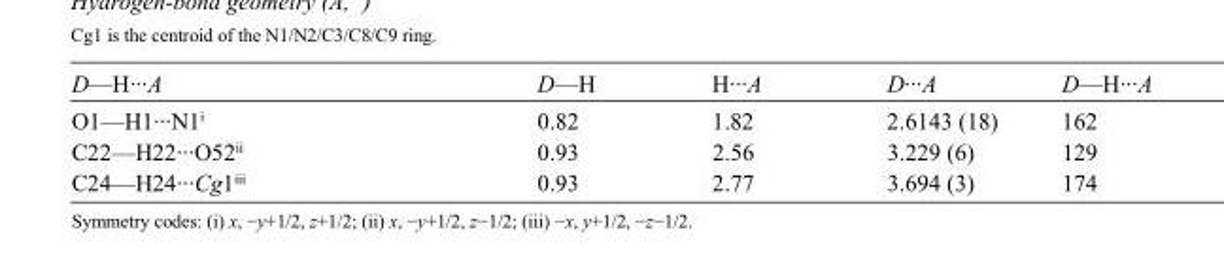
<table><tbody><tr><td>D—H···A</td><td>D—H</td><td>H···A</td><td>D···A</td><td>D—H···A</td></tr><tr><td>O1—H1···N1<sup>i</sup></td><td>0.82</td><td>1.82</td><td>2.6143 (18)</td><td>162</td></tr><tr><td>C22—H22···O52<sup>ii</sup></td><td>0.93</td><td>2.56</td><td>3.229 (6)</td><td>129</td></tr><tr><td>C24—H24···Cg1<sup>iii</sup></td><td>0.93</td><td>2.77</td><td>3.694 (3)</td><td>174</td></tr></tbody></table>